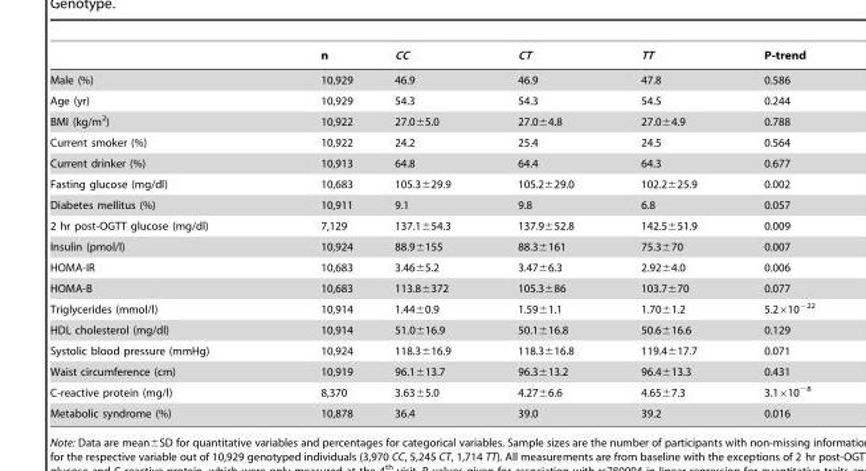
<table><thead><tr><td></td><td>n</td><td>CC</td><td>CT</td><td>TT</td><td>P-trend</td></tr></thead><tbody><tr><td>Male (%)</td><td>10,929</td><td>46.9</td><td>46.9</td><td>47.8</td><td>0.586</td></tr><tr><td>Age (yr)</td><td>10,929</td><td>54.3</td><td>54.3</td><td>54.5</td><td>0.244</td></tr><tr><td>BMI (kg/m<sup>2</sup>)</td><td>10,922</td><td>27.0±5.0</td><td>27.0±4.8</td><td>27.0±4.9</td><td>0.788</td></tr><tr><td>Current smoker (%)</td><td>10,922</td><td>24.2</td><td>25.4</td><td>24.5</td><td>0.564</td></tr><tr><td>Current drinker (%)</td><td>10,913</td><td>64.8</td><td>64.4</td><td>64.3</td><td>0.677</td></tr><tr><td>Fasting glucose (mg/dl)</td><td>10,683</td><td>105.3±29.9</td><td>105.2±29.0</td><td>102.2±25.9</td><td>0.002</td></tr><tr><td>Diabetes mellitus (%)</td><td>10,911</td><td>9.1</td><td>9.8</td><td>6.8</td><td>0.057</td></tr><tr><td>2 hr post-OGTT glucose (mg/dl)</td><td>7,129</td><td>137.1±54.3</td><td>137.9±52.8</td><td>142.5±51.9</td><td>0.009</td></tr><tr><td>Insulin (pmol/l)</td><td>10,924</td><td>88.9±155</td><td>88.3±161</td><td>75.3±70</td><td>0.007</td></tr><tr><td>HOMA-IR</td><td>10,683</td><td>3.46±5.2</td><td>3.47±6.3</td><td>2.92±4.0</td><td>0.006</td></tr><tr><td>HOMA-B</td><td>10,683</td><td>113.8±372</td><td>105.3±86</td><td>103.7±70</td><td>0.077</td></tr><tr><td>Triglycerides (mmol/l)</td><td>10,914</td><td>1.44±0.9</td><td>1.59±1.1</td><td>1.70±1.2</td><td>5.2×10<sup>−22</sup></td></tr><tr><td>HDL cholesterol (mg/dl)</td><td>10,914</td><td>51.0±16.9</td><td>50.1±16.8</td><td>50.6±16.6</td><td>0.129</td></tr><tr><td>Systolic blood pressure (mmHg)</td><td>10,924</td><td>118.3±16.9</td><td>118.3±16.8</td><td>119.4±17.7</td><td>0.071</td></tr><tr><td>Waist circumference (cm)</td><td>10,919</td><td>96.1±13.7</td><td>96.3±13.2</td><td>96.4±13.3</td><td>0.431</td></tr><tr><td>C-reactive protein (mg/l)</td><td>8,370</td><td>3.63±5.0</td><td>4.27±6.6</td><td>4.65±7.3</td><td>3.1×10<sup>−8</sup></td></tr><tr><td>Metabolic syndrome (%)</td><td>10,878</td><td>36.4</td><td>39.0</td><td>39.2</td><td>0.016</td></tr></tbody></table>